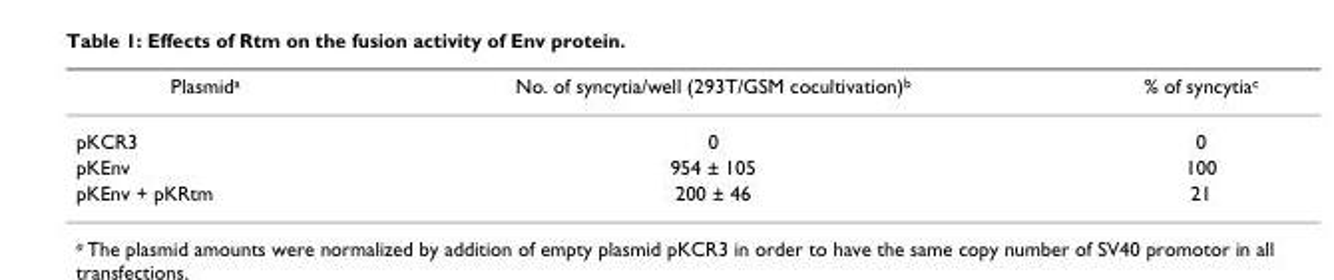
<table><thead><tr><td>Plasmid<sup>a</sup></td><td>No. of syncytia/well (293T/GSM cocultivation)<sup>b</sup></td><td>% of syncytia<sup>c</sup></td></tr></thead><tbody><tr><td>pKCR3</td><td>0</td><td>0</td></tr><tr><td>pKEnv</td><td>954 ± 105</td><td>100</td></tr><tr><td>pKEnv + pKRtm</td><td>200 ± 46</td><td>21</td></tr></tbody></table>